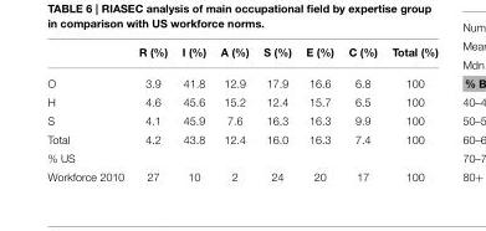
<table><thead><tr><td></td><td>R (%)</td><td>I (%)</td><td>A (%)</td><td>S (%)</td><td>E (%)</td><td>C (%)</td><td>Total (%)</td></tr></thead><tbody><tr><td>O</td><td>3.9</td><td>41.8</td><td>12.9</td><td>17.9</td><td>16.6</td><td>6.8</td><td>100</td></tr><tr><td>H</td><td>4.6</td><td>45.6</td><td>15.2</td><td>12.4</td><td>15.7</td><td>6.5</td><td>100</td></tr><tr><td>S</td><td>4.1</td><td>45.9</td><td>7.6</td><td>16.3</td><td>16.3</td><td>9.9</td><td>100</td></tr><tr><td>Total</td><td>4.2</td><td>43.8</td><td>12.4</td><td>16.0</td><td>16.3</td><td>7.4</td><td>100</td></tr><tr><td colspan="8">% US</td></tr><tr><td>Workforce 2010</td><td>27</td><td>10</td><td>2</td><td>24</td><td>20</td><td>17</td><td>100</td></tr></tbody></table>